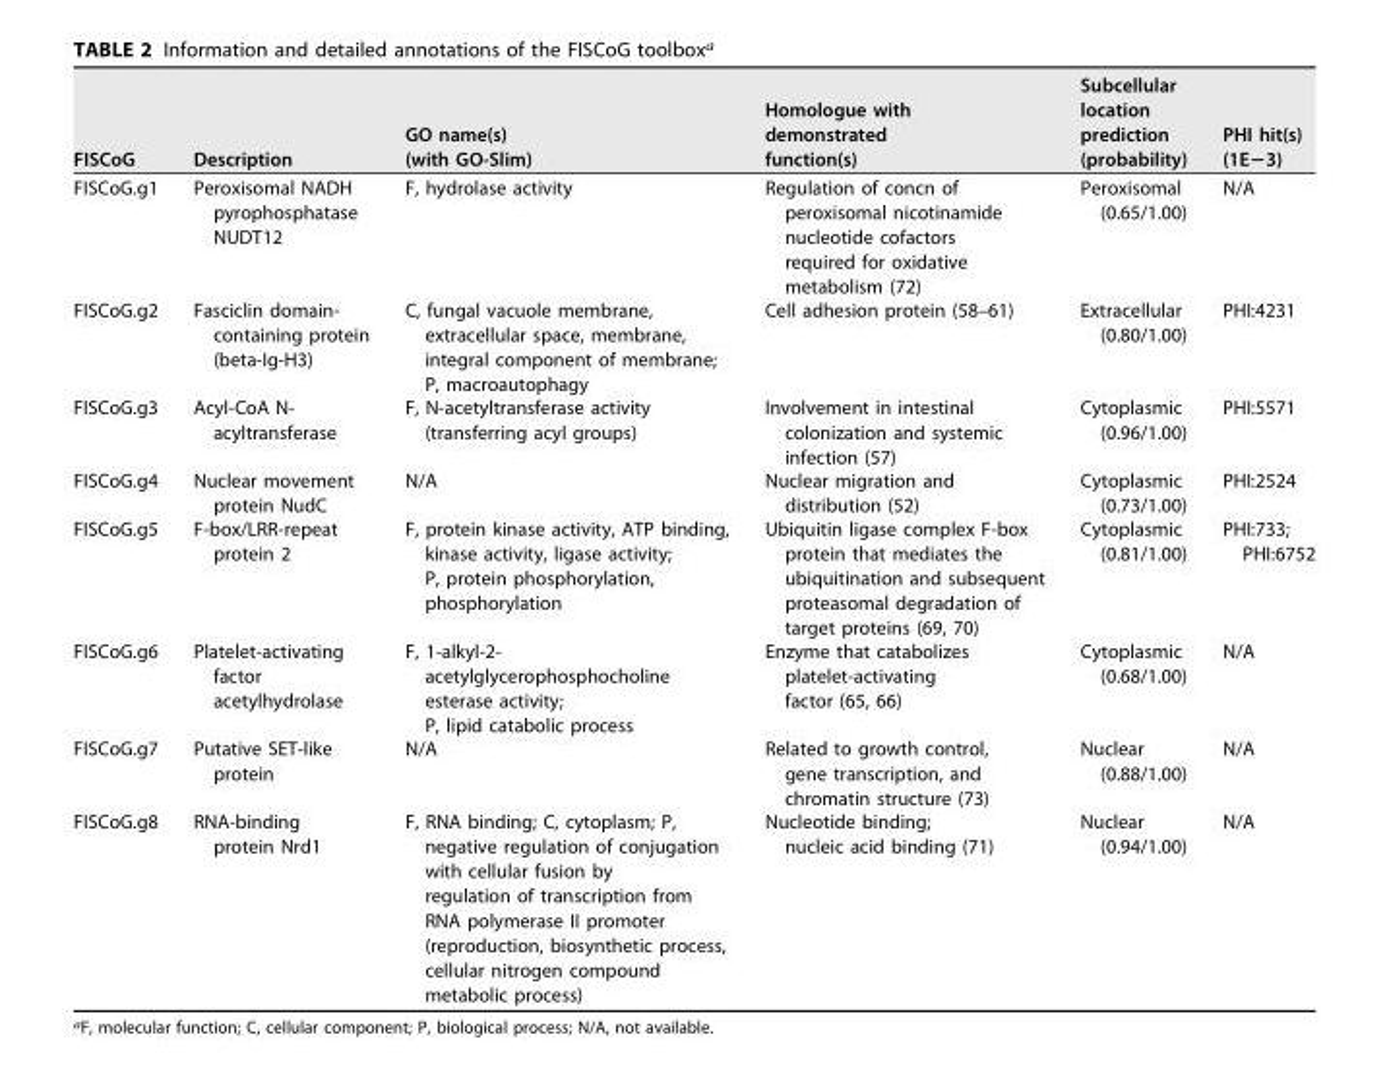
<table><thead><tr><td>FISCoG</td><td>Description</td><td>GO name(s) (with GO-Slim)</td><td>Homologue with demonstrated function(s)</td><td>Subcellular location prediction (probability)</td><td>PHI hit(s) (1E−3)</td></tr></thead><tbody><tr><td>FISCoG.g1</td><td>Peroxisomal NADH pyrophosphatase NUDT12</td><td>F, hydrolase activity</td><td>Regulation of concn of peroxisomal nicotinamide nucleotide cofactors required for oxidative metabolism (72)</td><td>Peroxisomal (0.65/1.00)</td><td>N/A</td></tr><tr><td>FISCoG.g2</td><td>Fasciclin domain- containing protein (beta-Ig-H3)</td><td>C, fungal vacuole membrane, extracellular space, membrane, integral component of membrane; P, macroautophagy</td><td>Cell adhesion protein (58–61)</td><td>Extracellular (0.80/1.00)</td><td>PHI:4231</td></tr><tr><td>FISCoG.g3</td><td>Acyl-CoA N- acyltransferase</td><td>F, N-acetyltransferase activity (transferring acyl groups)</td><td>Involvement in intestinal colonization and systemic infection (57)</td><td>Cytoplasmic (0.96/1.00)</td><td>PHI:5571</td></tr><tr><td>FISCoG.g4</td><td>Nuclear movement protein NudC</td><td>N/A</td><td>Nuclear migration and distribution (52)</td><td>Cytoplasmic (0.73/1.00)</td><td>PHI:2524</td></tr><tr><td>FISCoG.g5</td><td>F-box/LRR-repeat protein 2</td><td>F, protein kinase activity, ATP binding, kinase activity, ligase activity; P, protein phosphorylation, phosphorylation</td><td>Ubiquitin ligase complex F-box protein that mediates the ubiquitination and subsequent proteasomal degradation of target proteins (69, 70)</td><td>Cytoplasmic (0.81/1.00)</td><td>PHI:733; PHI:6752</td></tr><tr><td>FISCoG.g6</td><td>Platelet-activating factor acetylhydrolase</td><td>F, 1-alkyl-2- acetylglycerophosphocholine esterase activity; P, lipid catabolic process</td><td>Enzyme that catabolizes platelet-activating factor (65, 66)</td><td>Cytoplasmic (0.68/1.00)</td><td>N/A</td></tr><tr><td>FISCoG.g7</td><td>Putative SET-like protein</td><td>N/A</td><td>Related to growth control, gene transcription, and chromatin structure (73)</td><td>Nuclear (0.88/1.00)</td><td>N/A</td></tr><tr><td>FISCoG.g8</td><td>RNA-binding protein Nrd1</td><td>F, RNA binding; C, cytoplasm; P, negative regulation of conjugation with cellular fusion by regulation of transcription from RNA polymerase II promoter (reproduction, biosynthetic process, cellular nitrogen compound metabolic process)</td><td>Nucleotide binding; nucleic acid binding (71)</td><td>Nuclear (0.94/1.00)</td><td>N/A</td></tr></tbody></table>